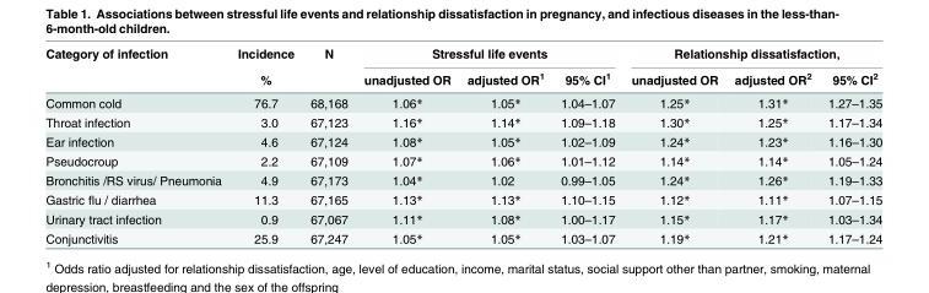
<table><thead><tr><td rowspan="2">Category of infection</td><td rowspan="2">Incidence %</td><td rowspan="2">N</td><td colspan="3">Stressful life events</td><td colspan="3">Relationship dissatisfaction,</td></tr><tr><td>unadjusted OR</td><td>adjusted OR<sup>1</sup></td><td>95% CI<sup>1</sup></td><td>unadjusted OR</td><td>adjusted OR<sup>2</sup></td><td>95% CI<sup>2</sup></td></tr></thead><tbody><tr><td>Common cold</td><td>76.7</td><td>68,168</td><td>1.06*</td><td>1.05*</td><td>1.04–1.07</td><td>1.25*</td><td>1.31*</td><td>1.27–1.35</td></tr><tr><td>Throat infection</td><td>3.0</td><td>67,123</td><td>1.16*</td><td>1.14*</td><td>1.09–1.18</td><td>1.30*</td><td>1.25*</td><td>1.17–1.34</td></tr><tr><td>Ear infection</td><td>4.6</td><td>67,124</td><td>1.08*</td><td>1.05*</td><td>1.02–1.09</td><td>1.24*</td><td>1.23*</td><td>1.16–1.30</td></tr><tr><td>Pseudocroup</td><td>2.2</td><td>67,109</td><td>1.07*</td><td>1.06*</td><td>1.01–1.12</td><td>1.14*</td><td>1.14*</td><td>1.05–1.24</td></tr><tr><td>Bronchitis /RS virus/ Pneumonia</td><td>4.9</td><td>67,173</td><td>1.04*</td><td>1.02</td><td>0.99–1.05</td><td>1.24*</td><td>1.26*</td><td>1.19–1.33</td></tr><tr><td>Gastric flu / diarrhea</td><td>11.3</td><td>67,165</td><td>1.13*</td><td>1.13*</td><td>1.10–1.15</td><td>1.12*</td><td>1.11*</td><td>1.07–1.15</td></tr><tr><td>Urinary tract infection</td><td>0.9</td><td>67,067</td><td>1.11*</td><td>1.08*</td><td>1.00–1.17</td><td>1.15*</td><td>1.17*</td><td>1.03–1.34</td></tr><tr><td>Conjunctivitis</td><td>25.9</td><td>67,247</td><td>1.05*</td><td>1.05*</td><td>1.03–1.07</td><td>1.19*</td><td>1.21*</td><td>1.17–1.24</td></tr></tbody></table>